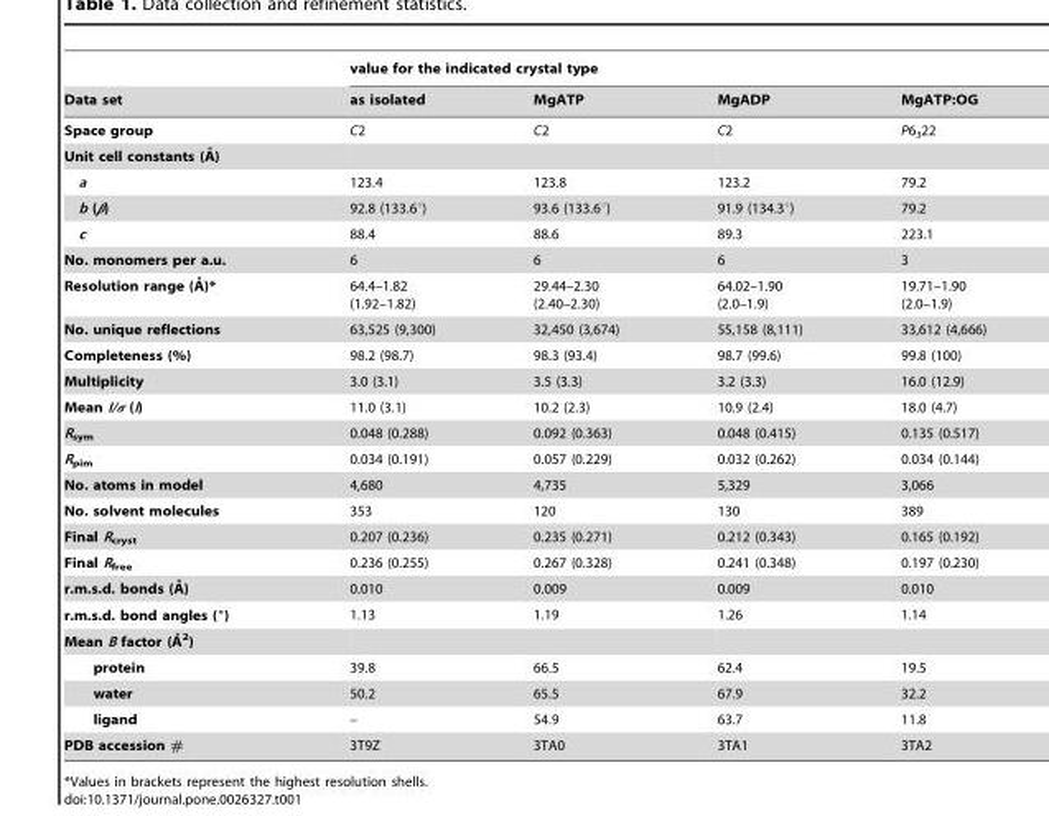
<table><thead><tr><td rowspan="2">Data set</td><td colspan="4">value for the indicated crystal type</td></tr><tr><td>as isolated</td><td>MgATP</td><td>MgADP</td><td>MgATP:OG</td></tr></thead><tbody><tr><td>Space group</td><td>C2</td><td>C2</td><td>C2</td><td>P6<sub>3</sub>22</td></tr><tr><td colspan="5">Unit cell constants (A˚)</td></tr><tr><td>a</td><td>123.4</td><td>123.8</td><td>123.2</td><td>79.2</td></tr><tr><td>b (β)</td><td>92.8 (133.6°)</td><td>93.6 (133.6°)</td><td>91.9 (134.3°)</td><td>79.2</td></tr><tr><td>c</td><td>88.4</td><td>88.6</td><td>89.3</td><td>223.1</td></tr><tr><td>No. monomers per a.u.</td><td>6</td><td>6</td><td>6</td><td>3</td></tr><tr><td>Resolution range (A˚ )*</td><td>64.4–1.82 (1.92–1.82)</td><td>29.44–2.30 (2.40–2.30)</td><td>64.02–1.90 (2.0–1.9)</td><td>19.71–1.90 (2.0–1.9)</td></tr><tr><td>No. unique reflections</td><td>63,525 (9,300)</td><td>32,450 (3,674)</td><td>55,158 (8,111)</td><td>33,612 (4,666)</td></tr><tr><td>Completeness (%)</td><td>98.2 (98.7)</td><td>98.3 (93.4)</td><td>98.7 (99.6)</td><td>99.8 (100)</td></tr><tr><td>Multiplicity</td><td>3.0 (3.1)</td><td>3.5 (3.3)</td><td>3.2 (3.3)</td><td>16.0 (12.9)</td></tr><tr><td>Mean I/σ (I)</td><td>11.0 (3.1)</td><td>10.2 (2.3)</td><td>10.9 (2.4)</td><td>18.0 (4.7)</td></tr><tr><td>R<sub>sym</sub></td><td>0.048 (0.288)</td><td>0.092 (0.363)</td><td>0.048 (0.415)</td><td>0.135 (0.517)</td></tr><tr><td>R<sub>pim</sub></td><td>0.034 (0.191)</td><td>0.057 (0.229)</td><td>0.032 (0.262)</td><td>0.034 (0.144)</td></tr><tr><td>No. atoms in model</td><td>4,680</td><td>4,735</td><td>5,329</td><td>3,066</td></tr><tr><td>No. solvent molecules</td><td>353</td><td>120</td><td>130</td><td>389</td></tr><tr><td>Final R<sub>cryst</sub></td><td>0.207 (0.236)</td><td>0.235 (0.271)</td><td>0.212 (0.343)</td><td>0.165 (0.192)</td></tr><tr><td>Final R<sub>free</sub></td><td>0.236 (0.255)</td><td>0.267 (0.328)</td><td>0.241 (0.348)</td><td>0.197 (0.230)</td></tr><tr><td>r.m.s.d. bonds (A˚ )</td><td>0.010</td><td>0.009</td><td>0.009</td><td>0.010</td></tr><tr><td>r.m.s.d. bond angles (°)</td><td>1.13</td><td>1.19</td><td>1.26</td><td>1.14</td></tr><tr><td colspan="5">Mean B factor (A˚ 2)</td></tr><tr><td>protein</td><td>39.8</td><td>66.5</td><td>62.4</td><td>19.5</td></tr><tr><td>water</td><td>50.2</td><td>65.5</td><td>67.9</td><td>32.2</td></tr><tr><td>ligand</td><td>–</td><td>54.9</td><td>63.7</td><td>11.8</td></tr><tr><td>PDB accession #</td><td>3T9Z</td><td>3TA0</td><td>3TA1</td><td>3TA2</td></tr></tbody></table>